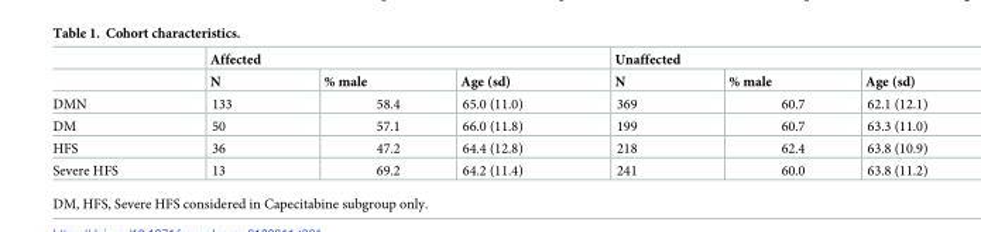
<table><thead><tr><td rowspan="2"></td><td colspan="3">Affected</td><td colspan="3">Unaffected</td></tr><tr><td>N</td><td>% male</td><td>Age (sd)</td><td>N</td><td>% male</td><td>Age (sd)</td></tr></thead><tbody><tr><td>DMN</td><td>133</td><td>58.4</td><td>65.0 (11.0)</td><td>369</td><td>60.7</td><td>62.1 (12.1)</td></tr><tr><td>DM</td><td>50</td><td>57.1</td><td>66.0 (11.8)</td><td>199</td><td>60.7</td><td>63.3 (11.0)</td></tr><tr><td>HFS</td><td>36</td><td>47.2</td><td>64.4 (12.8)</td><td>218</td><td>62.4</td><td>63.8 (10.9)</td></tr><tr><td>Severe HFS</td><td>13</td><td>69.2</td><td>64.2 (11.4)</td><td>241</td><td>60.0</td><td>63.8 (11.2)</td></tr></tbody></table>